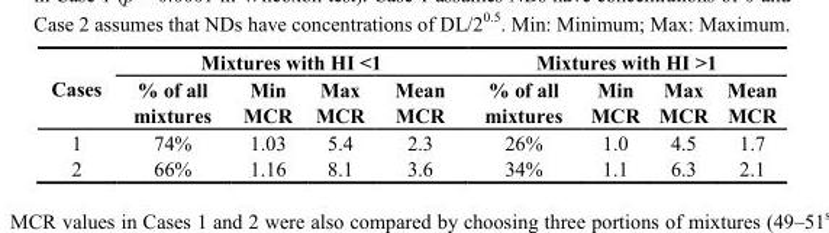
<table><thead><tr><td rowspan="2">Cases</td><td colspan="4">Mixtures with HI &lt;1</td><td colspan="4">Mixtures with HI &gt;1</td></tr><tr><td>% of all mixtures</td><td>Min MCR</td><td>Max MCR</td><td>Mean MCR</td><td>% of all mixtures</td><td>Min MCR</td><td>Max MCR</td><td>Mean MCR</td></tr></thead><tbody><tr><td>1</td><td>74%</td><td>1.03</td><td>5.4</td><td>2.3</td><td>26%</td><td>1.0</td><td>4.5</td><td>1.7</td></tr><tr><td>2</td><td>66%</td><td>1.16</td><td>8.1</td><td>3.6</td><td>34%</td><td>1.1</td><td>6.3</td><td>2.1</td></tr></tbody></table>